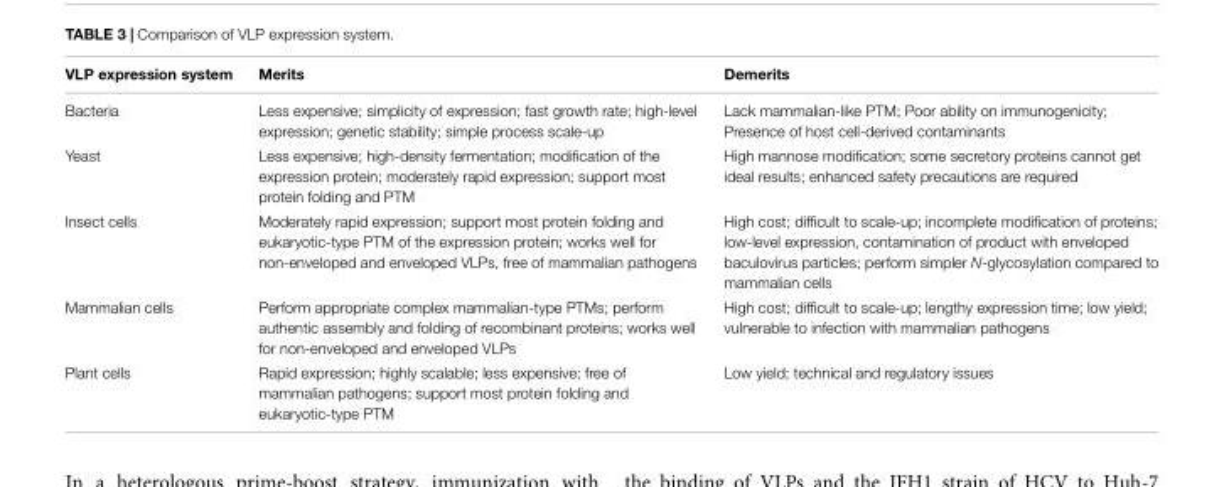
<table><thead><tr><td>VLP expression system</td><td>Merits</td><td>Demerits</td></tr></thead><tbody><tr><td>Bacteria</td><td>Less expensive; simplicity of expression; fast growth rate; high-level expression; genetic stability; simple process scale-up</td><td>Lack mammalian-like PTM; Poor ability on immunogenicity; Presence of host cell-derived contaminants</td></tr><tr><td>Yeast</td><td>Less expensive; high-density fermentation; modification of the expression protein; moderately rapid expression; support most protein folding and PTM</td><td>High mannose modification; some secretory proteins cannot get ideal results; enhanced safety precautions are required</td></tr><tr><td>Insect cells</td><td>Moderately rapid expression; support most protein folding and eukaryotic-type PTM of the expression protein; works well for non-enveloped and enveloped VLPs, free of mammalian pathogens</td><td>High cost; difficult to scale-up; incomplete modification of proteins; low-level expression, contamination of product with enveloped baculovirus particles; perform simpler N-glycosylation compared to mammalian cells</td></tr><tr><td>Mammalian cells</td><td>Perform appropriate complex mammalian-type PTMs; perform authentic assembly and folding of recombinant proteins; works well for non-enveloped and enveloped VLPs</td><td>High cost; difficult to scale-up; lengthy expression time; low yield; vulnerable to infection with mammalian pathogens</td></tr><tr><td>Plant cells</td><td>Rapid expression; highly scalable; less expensive; free of mammalian pathogens; support most protein folding and eukaryotic-type PTM</td><td>Low yield; technical and regulatory issues</td></tr></tbody></table>